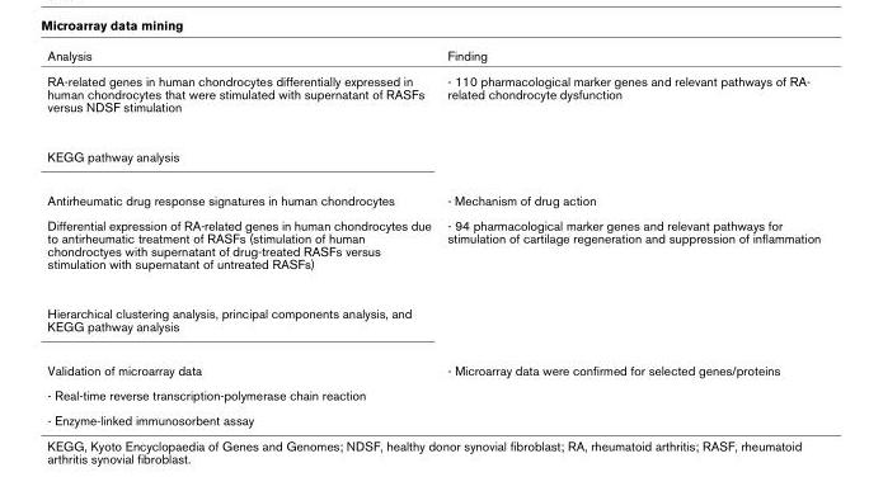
<table><thead><tr><td>Analysis</td><td>Finding</td></tr></thead><tbody><tr><td>RA-related genes in human chondrocytes differentially expressed in human chondrocytes that were stimulated with supernatant of RASFs versus NDSF stimulation</td><td>- 110 pharmacological marker genes and relevant pathways of RA- related chondrocyte dysfunction</td></tr><tr><td colspan="2">KEGG pathway analysis</td></tr><tr><td>Antirheumatic drug response signatures in human chondrocytes</td><td>- Mechanism of drug action</td></tr><tr><td>Differential expression of RA-related genes in human chondrocytes due to antirheumatic treatment of RASFs (stimulation of human chondroctyes with supernatant of drug-treated RASFs versus stimulation with supernatant of untreated RASFs)</td><td>- 94 pharmacological marker genes and relevant pathways for stimulation of cartilage regeneration and suppression of inflammation</td></tr><tr><td colspan="2">Hierarchical clustering analysis, principal components analysis, and KEGG pathway analysis</td></tr><tr><td>Validation of microarray data</td><td>- Microarray data were confirmed for selected genes/proteins</td></tr><tr><td colspan="2">- Real-time reverse transcription-polymerase chain reaction</td></tr><tr><td>- Enzyme-linked immunosorbent assay</td><td></td></tr></tbody></table>